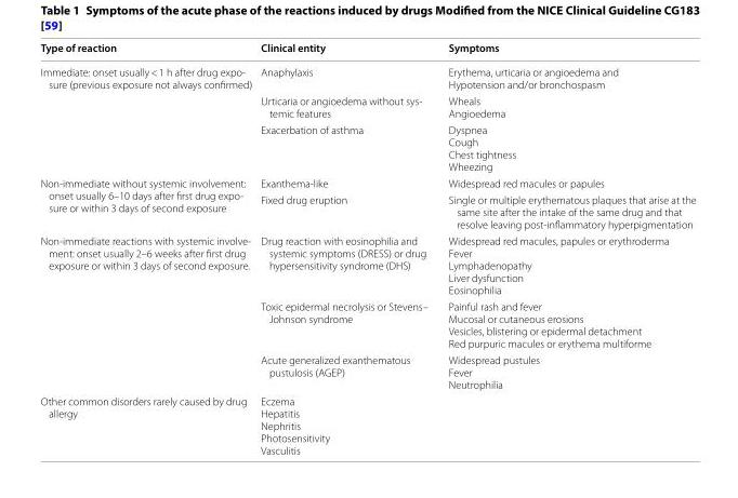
<table><thead><tr><td>Type of reaction</td><td>Clinical entity</td><td>Symptoms</td></tr></thead><tbody><tr><td rowspan="3">Immediate: onset usually &lt; 1 h after drug expo- sure (previous exposure not always confirmed)</td><td>Anaphylaxis</td><td>Erythema, urticaria or angioedema and Hypotension and/or bronchospasm</td></tr><tr><td>Urticaria or angioedema without sys- temic features</td><td>Wheals Angioedema</td></tr><tr><td>Exacerbation of asthma</td><td>Dyspnea Cough Chest tightness Wheezing</td></tr><tr><td rowspan="2">Non-immediate without systemic involvement: onset usually 6–10 days after first drug expo- sure or within 3 days of second exposure</td><td>Exanthema-like</td><td>Widespread red macules or papules</td></tr><tr><td>Fixed drug eruption</td><td>Single or multiple erythematous plaques that arise at the same site after the intake of the same drug and that resolve leaving post-inflammatory hyperpigmentation</td></tr><tr><td rowspan="3">Non-immediate reactions with systemic involve- ment: onset usually 2–6 weeks after first drug exposure or within 3 days of second exposure.</td><td>Drug reaction with eosinophilia and systemic symptoms (DRESS) or drug hypersensitivity syndrome (DHS)</td><td>Widespread red macules, papules or erythroderma Fever Lymphadenopathy Liver dysfunction Eosinophilia</td></tr><tr><td>Toxic epidermal necrolysis or Stevens– Johnson syndrome</td><td>Painful rash and fever Mucosal or cutaneous erosions Vesicles, blistering or epidermal detachment Red purpuric macules or erythema multiforme</td></tr><tr><td>Acute generalized exanthematous pustulosis (AGEP)</td><td>Widespread pustules Fever Neutrophilia</td></tr><tr><td>Other common disorders rarely caused by drug allergy</td><td>Eczema Hepatitis Nephritis Photosensitivity Vasculitis</td><td></td></tr></tbody></table>